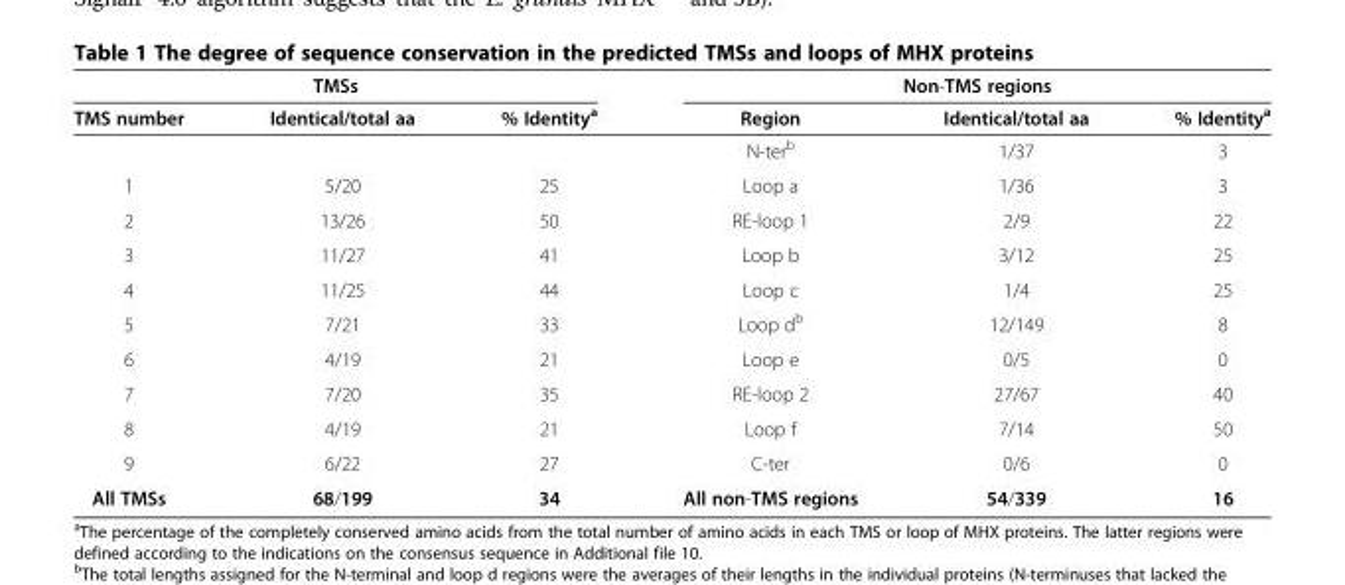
<table><thead><tr><td colspan="3">TMSs</td><td colspan="3">Non-TMS regions</td></tr><tr><td>TMS number</td><td>Identical/total aa</td><td>% Identity<sup>a</sup></td><td>Region</td><td>Identical/total aa</td><td>% Identity<sup>a</sup></td></tr></thead><tbody><tr><td></td><td></td><td></td><td>N-ter<sup>b</sup></td><td>1/37</td><td>3</td></tr><tr><td>1</td><td>5/20</td><td>25</td><td>Loop a</td><td>1/36</td><td>3</td></tr><tr><td>2</td><td>13/26</td><td>50</td><td>RE-loop 1</td><td>2/9</td><td>22</td></tr><tr><td>3</td><td>11/27</td><td>41</td><td>Loop b</td><td>3/12</td><td>25</td></tr><tr><td>4</td><td>11/25</td><td>44</td><td>Loop c</td><td>1/4</td><td>25</td></tr><tr><td>5</td><td>7/21</td><td>33</td><td>Loop d<sup>b</sup></td><td>12/149</td><td>8</td></tr><tr><td>6</td><td>4/19</td><td>21</td><td>Loop e</td><td>0/5</td><td>0</td></tr><tr><td>7</td><td>7/20</td><td>35</td><td>RE-loop 2</td><td>27/67</td><td>40</td></tr><tr><td>8</td><td>4/19</td><td>21</td><td>Loop f</td><td>7/14</td><td>50</td></tr><tr><td>9</td><td>6/22</td><td>27</td><td>C-ter</td><td>0/6</td><td>0</td></tr><tr><td>All TMSs</td><td>68/199</td><td>34</td><td>All non-TMS regions</td><td>54/339</td><td>16</td></tr></tbody></table>